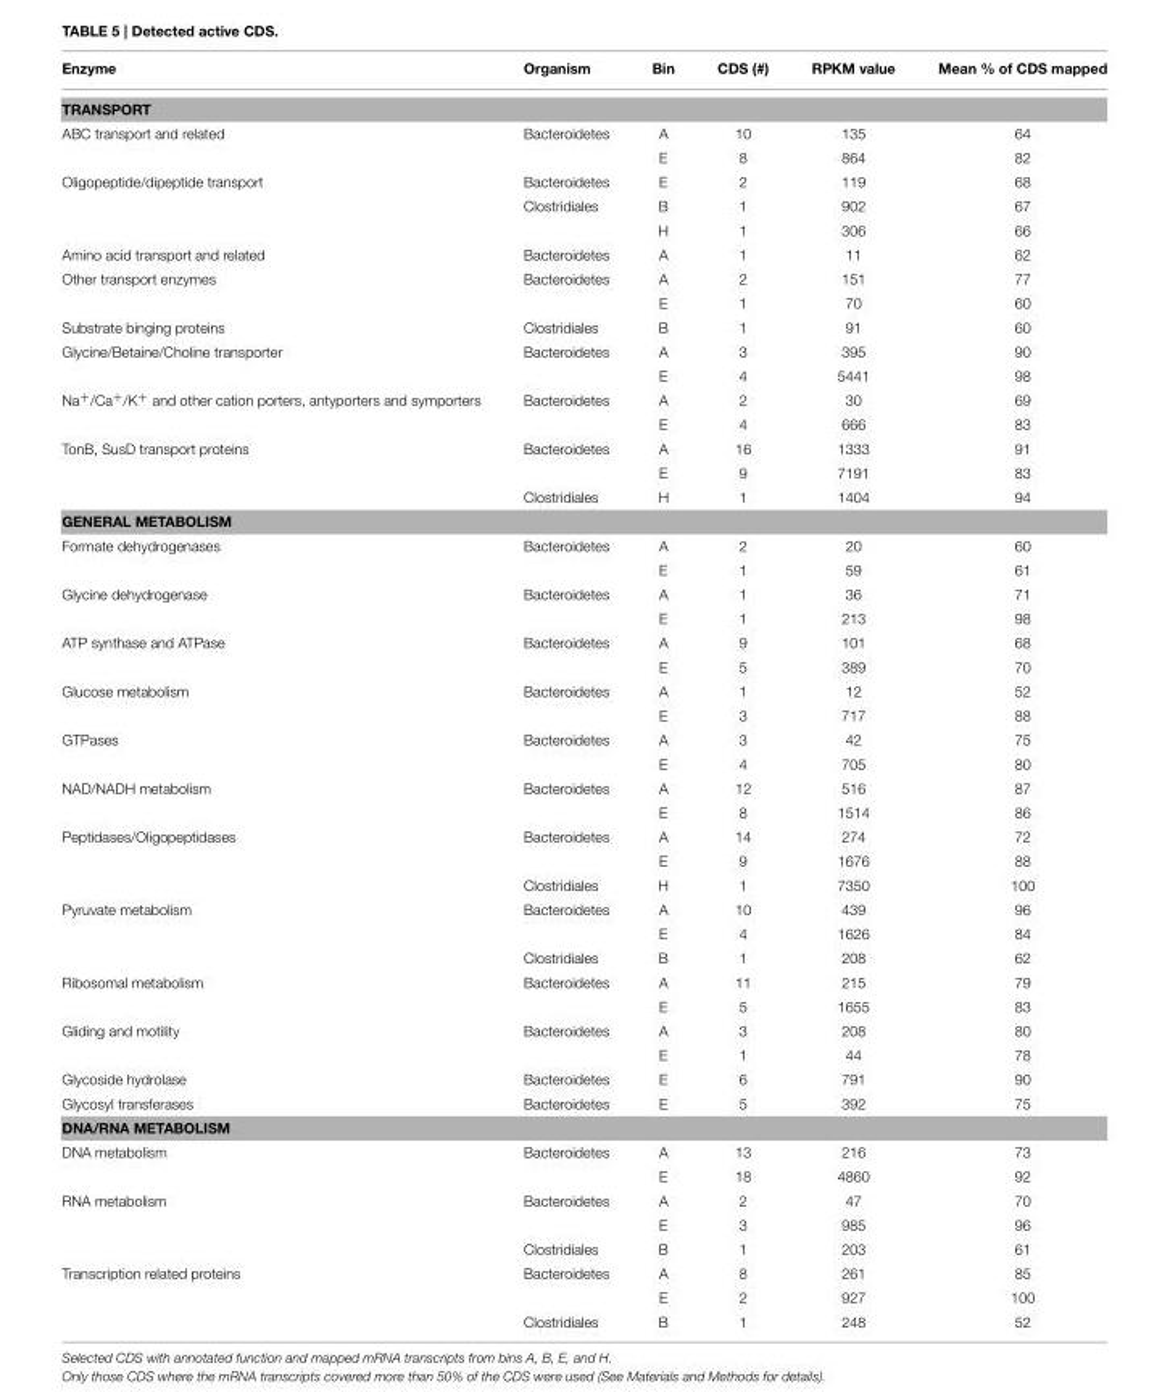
<table><thead><tr><td>Enzyme</td><td>Organism</td><td>Bin</td><td>CDS (#)</td><td>RPKM value</td><td>Mean % of CDS mapped</td></tr></thead><tbody><tr><td colspan="6">TRANSPORT</td></tr><tr><td rowspan="2">ABC transport and related</td><td>Bacteroidetes</td><td>A</td><td>10</td><td>135</td><td>64</td></tr><tr><td></td><td>E</td><td>8</td><td>864</td><td>82</td></tr><tr><td rowspan="3">Oligopeptide/dipeptide transport</td><td>Bacteroidetes</td><td>E</td><td>2</td><td>119</td><td>68</td></tr><tr><td>Clostridiales</td><td>B</td><td>1</td><td>902</td><td>67</td></tr><tr><td></td><td>H</td><td>1</td><td>306</td><td>66</td></tr><tr><td>Amino acid transport and related</td><td>Bacteroidetes</td><td>A</td><td>1</td><td>11</td><td>62</td></tr><tr><td rowspan="2">Other transport enzymes</td><td>Bacteroidetes</td><td>A</td><td>2</td><td>151</td><td>77</td></tr><tr><td></td><td>E</td><td>1</td><td>70</td><td>60</td></tr><tr><td>Substrate binging proteins</td><td>Clostridiales</td><td>B</td><td>1</td><td>91</td><td>60</td></tr><tr><td rowspan="2">Glycine/Betaine/Choline transporter</td><td>Bacteroidetes</td><td>A</td><td>3</td><td>395</td><td>90</td></tr><tr><td></td><td>E</td><td>4</td><td>5441</td><td>98</td></tr><tr><td rowspan="2">Na<sup>+</sup>/Ca<sup>+</sup>/K<sup>+</sup> and other cation porters, antyporters and symporters</td><td>Bacteroidetes</td><td>A</td><td>2</td><td>30</td><td>69</td></tr><tr><td></td><td>E</td><td>4</td><td>666</td><td>83</td></tr><tr><td rowspan="3">TonB, SusD transport proteins</td><td>Bacteroidetes</td><td>A</td><td>16</td><td>1333</td><td>91</td></tr><tr><td></td><td>E</td><td>9</td><td>7191</td><td>83</td></tr><tr><td>Clostridiales</td><td>H</td><td>1</td><td>1404</td><td>94</td></tr><tr><td colspan="6">GENERAL METABOLISM</td></tr><tr><td rowspan="2">Formate dehydrogenases</td><td>Bacteroidetes</td><td>A</td><td>2</td><td>20</td><td>60</td></tr><tr><td></td><td>E</td><td>1</td><td>59</td><td>61</td></tr><tr><td rowspan="2">Glycine dehydrogenase</td><td>Bacteroidetes</td><td>A</td><td>1</td><td>36</td><td>71</td></tr><tr><td></td><td>E</td><td>1</td><td>213</td><td>98</td></tr><tr><td rowspan="2">ATP synthase and ATPase</td><td>Bacteroidetes</td><td>A</td><td>9</td><td>101</td><td>68</td></tr><tr><td></td><td>E</td><td>5</td><td>389</td><td>70</td></tr><tr><td rowspan="2">Glucose metabolism</td><td>Bacteroidetes</td><td>A</td><td>1</td><td>12</td><td>52</td></tr><tr><td></td><td>E</td><td>3</td><td>717</td><td>88</td></tr><tr><td rowspan="2">GTPases</td><td>Bacteroidetes</td><td>A</td><td>3</td><td>42</td><td>75</td></tr><tr><td></td><td>E</td><td>4</td><td>705</td><td>80</td></tr><tr><td rowspan="2">NAD/NADH metabolism</td><td>Bacteroidetes</td><td>A</td><td>12</td><td>516</td><td>87</td></tr><tr><td></td><td>E</td><td>8</td><td>1514</td><td>86</td></tr><tr><td rowspan="3">Peptidases/Oligopeptidases</td><td>Bacteroidetes</td><td>A</td><td>14</td><td>274</td><td>72</td></tr><tr><td></td><td>E</td><td>9</td><td>1676</td><td>88</td></tr><tr><td>Clostridiales</td><td>H</td><td>1</td><td>7350</td><td>100</td></tr><tr><td rowspan="3">Pyruvate metabolism</td><td>Bacteroidetes</td><td>A</td><td>10</td><td>439</td><td>96</td></tr><tr><td></td><td>E</td><td>4</td><td>1626</td><td>84</td></tr><tr><td>Clostridiales</td><td>B</td><td>1</td><td>208</td><td>62</td></tr><tr><td rowspan="2">Ribosomal metabolism</td><td>Bacteroidetes</td><td>A</td><td>11</td><td>215</td><td>79</td></tr><tr><td></td><td>E</td><td>5</td><td>1655</td><td>83</td></tr><tr><td rowspan="2">Gliding and motility</td><td>Bacteroidetes</td><td>A</td><td>3</td><td>208</td><td>80</td></tr><tr><td></td><td>E</td><td>1</td><td>44</td><td>78</td></tr><tr><td>Glycoside hydrolase</td><td>Bacteroidetes</td><td>E</td><td>6</td><td>791</td><td>90</td></tr><tr><td>Glycosyl transferases</td><td>Bacteroidetes</td><td>E</td><td>5</td><td>392</td><td>75</td></tr><tr><td colspan="6">DNA/RNA METABOLISM</td></tr><tr><td rowspan="2">DNA metabolism</td><td>Bacteroidetes</td><td>A</td><td>13</td><td>216</td><td>73</td></tr><tr><td></td><td>E</td><td>18</td><td>4860</td><td>92</td></tr><tr><td rowspan="3">RNA metabolism</td><td>Bacteroidetes</td><td>A</td><td>2</td><td>47</td><td>70</td></tr><tr><td></td><td>E</td><td>3</td><td>985</td><td>96</td></tr><tr><td>Clostridiales</td><td>B</td><td>1</td><td>203</td><td>61</td></tr><tr><td rowspan="3">Transcription related proteins</td><td>Bacteroidetes</td><td>A</td><td>8</td><td>261</td><td>85</td></tr><tr><td></td><td>E</td><td>2</td><td>927</td><td>100</td></tr><tr><td>Clostridiales</td><td>B</td><td>1</td><td>248</td><td>52</td></tr></tbody></table>